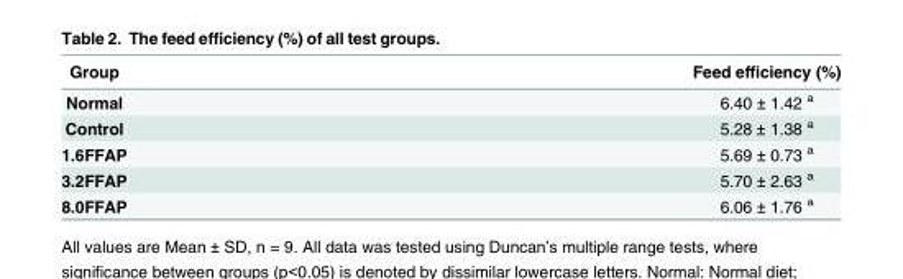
<table><thead><tr><td>Group</td><td>Feed efficiency (%)</td></tr></thead><tbody><tr><td>Normal</td><td>6.40 ± 1.42 <sup>a</sup></td></tr><tr><td>Control</td><td>5.28 ± 1.38 <sup>a</sup></td></tr><tr><td>1.6FFAP</td><td>5.69 ± 0.73 <sup>a</sup></td></tr><tr><td>3.2FFAP</td><td>5.70 ± 2.63 <sup>a</sup></td></tr><tr><td>8.0FFAP</td><td>6.06 ± 1.76 <sup>a</sup></td></tr></tbody></table>